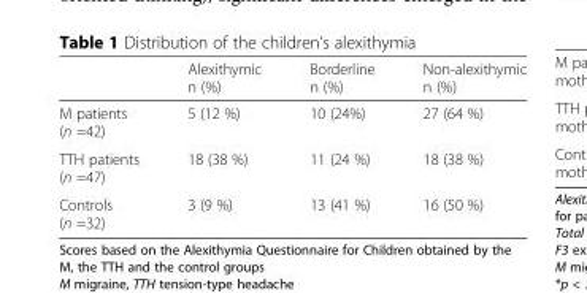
<table><thead><tr><td></td><td>Alexithymic n (%)</td><td>Borderline n (%)</td><td>Non-alexithymic n (%)</td></tr></thead><tbody><tr><td>M patients (n =42)</td><td>5 (12 %)</td><td>10 (24%)</td><td>27 (64 %)</td></tr><tr><td>TTH patients (n =47)</td><td>18 (38 %)</td><td>11 (24 %)</td><td>18 (38 %)</td></tr><tr><td>Controls (n =32)</td><td>3 (9 %)</td><td>13 (41 %)</td><td>16 (50 %)</td></tr></tbody></table>